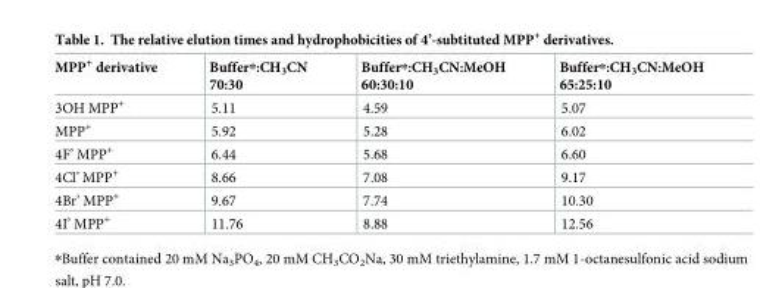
<table><thead><tr><td>MPP<sup>+</sup> derivative</td><td>Buffer٭:CH<sub>3</sub>CN 70:30</td><td>Buffer٭:CH<sub>3</sub>CN:MeOH 60:30:10</td><td>Buffer٭:CH<sub>3</sub>CN:MeOH 65:25:10</td></tr></thead><tbody><tr><td>3OH MPP<sup>+</sup></td><td>5.11</td><td>4.59</td><td>5.07</td></tr><tr><td>MPP<sup>+</sup></td><td>5.92</td><td>5.28</td><td>6.02</td></tr><tr><td>4F’ MPP<sup>+</sup></td><td>6.44</td><td>5.68</td><td>6.60</td></tr><tr><td>4Cl’ MPP<sup>+</sup></td><td>8.66</td><td>7.08</td><td>9.17</td></tr><tr><td>4Br’ MPP<sup>+</sup></td><td>9.67</td><td>7.74</td><td>10.30</td></tr><tr><td>4I’ MPP<sup>+</sup></td><td>11.76</td><td>8.88</td><td>12.56</td></tr></tbody></table>